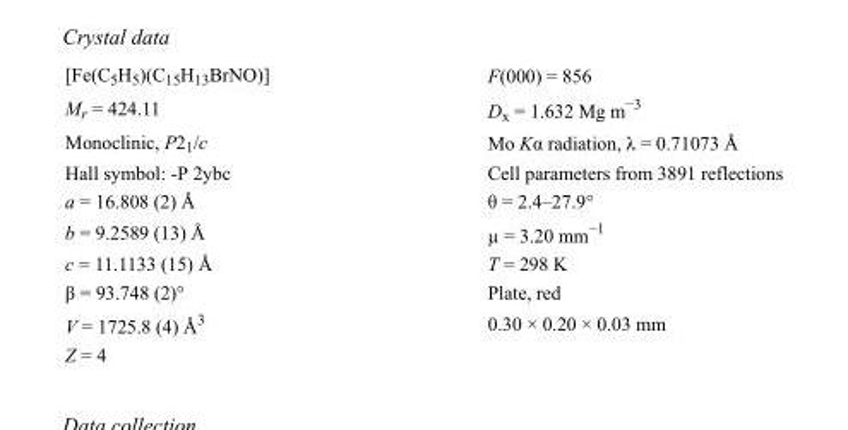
<table><tbody><tr><td>[Fe(C<sub>5</sub>H<sub>5</sub>)(C<sub>15</sub>H<sub>13</sub>BrNO)]</td><td>F(000) = 856</td></tr><tr><td>M<sub>r</sub> = 424.11</td><td>D<sub>x</sub> = 1.632 Mg m<sup>−3</sup></td></tr><tr><td>Monoclinic, P2<sub>1</sub>/c</td><td>Mo Kα radiation, λ = 0.71073 Å</td></tr><tr><td>Hall symbol: -P 2ybc</td><td>Cell parameters from 3891 reflections</td></tr><tr><td>a = 16.808 (2) Å</td><td>θ = 2.4–27.9°</td></tr><tr><td>b = 9.2589 (13) Å</td><td>µ = 3.20 mm<sup>−1</sup></td></tr><tr><td>c = 11.1133 (15) Å</td><td>T = 298 K</td></tr><tr><td>β = 93.748 (2)°</td><td>Plate, red</td></tr><tr><td>V = 1725.8 (4) Å<sup>3</sup></td><td>0.30 × 0.20 × 0.03 mm</td></tr><tr><td>Z = 4</td><td></td></tr></tbody></table>